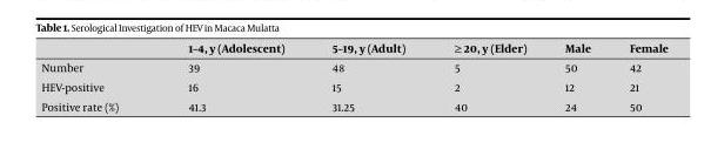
<table><thead><tr><td></td><td>1–4, y (Adolescent)</td><td>5–19, y (Adult)</td><td>≥ 20, y (Elder)</td><td>Male</td><td>Female</td></tr></thead><tbody><tr><td>Number</td><td>39</td><td>48</td><td>5</td><td>50</td><td>42</td></tr><tr><td>HEV-positive</td><td>16</td><td>15</td><td>2</td><td>12</td><td>21</td></tr><tr><td>Positive rate (%)</td><td>41.3</td><td>31.25</td><td>40</td><td>24</td><td>50</td></tr></tbody></table>